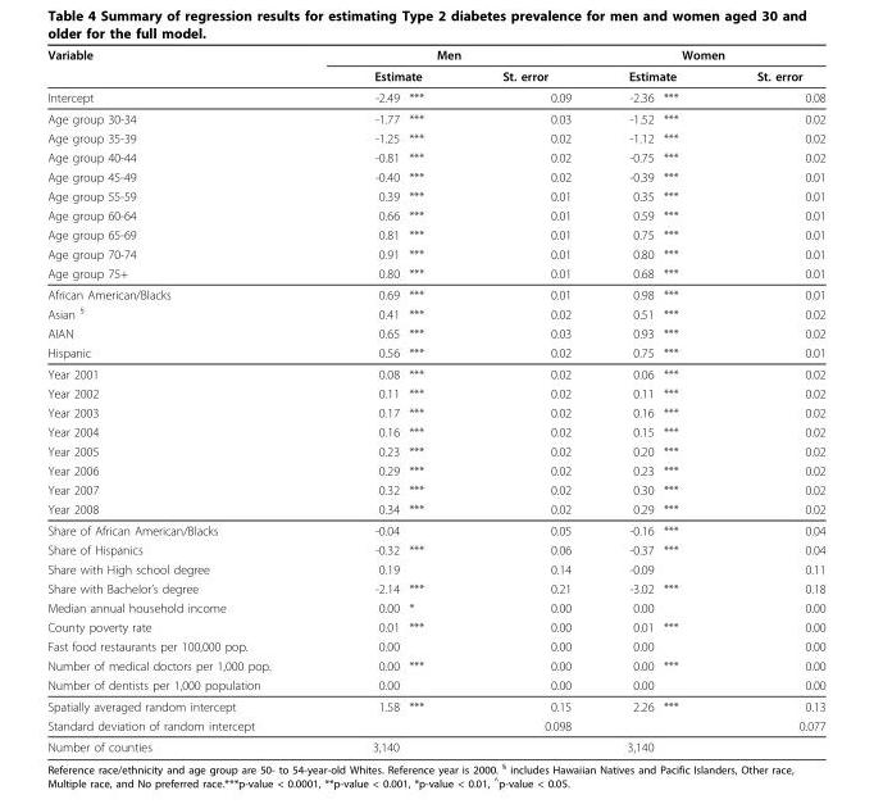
<table><thead><tr><td rowspan="3">Variable Intercept</td><td colspan="3">Men</td><td colspan="3">Women</td></tr><tr><td colspan="2">Estimate</td><td rowspan="2">St. error 0.09</td><td colspan="2">Estimate</td><td rowspan="2">St. error 0.08</td></tr><tr><td>-2.49</td><td>***</td><td>-2.36</td><td>***</td></tr></thead><tbody><tr><td>Age group 30-34</td><td>-1.77</td><td>***</td><td>0.03</td><td>-1.52</td><td>***</td><td>0.02</td></tr><tr><td>Age group 35-39</td><td>-1.25</td><td>***</td><td>0.02</td><td>-1.12</td><td>***</td><td>0.02</td></tr><tr><td>Age group 40-44</td><td>-0.81</td><td>***</td><td>0.02</td><td>-0.75</td><td>***</td><td>0.02</td></tr><tr><td>Age group 45-49</td><td>-0.40</td><td>***</td><td>0.02</td><td>-0.39</td><td>***</td><td>0.01</td></tr><tr><td>Age group 55-59</td><td>0.39</td><td>***</td><td>0.01</td><td>0.35</td><td>***</td><td>0.01</td></tr><tr><td>Age group 60-64</td><td>0.66</td><td>***</td><td>0.01</td><td>0.59</td><td>***</td><td>0.01</td></tr><tr><td>Age group 65-69</td><td>0.81</td><td>***</td><td>0.01</td><td>0.75</td><td>***</td><td>0.01</td></tr><tr><td>Age group 70-74</td><td>0.91</td><td>***</td><td>0.01</td><td>0.80</td><td>***</td><td>0.01</td></tr><tr><td>Age group 75+</td><td>0.80</td><td>***</td><td>0.01</td><td>0.68</td><td>***</td><td>0.01</td></tr><tr><td>African American/Blacks</td><td>0.69</td><td>***</td><td>0.01</td><td>0.98</td><td>***</td><td>0.01</td></tr><tr><td>Asian <sup>§</sup></td><td>0.41</td><td>***</td><td>0.02</td><td>0.51</td><td>***</td><td>0.02</td></tr><tr><td>AIAN</td><td>0.65</td><td>***</td><td>0.03</td><td>0.93</td><td>***</td><td>0.02</td></tr><tr><td>Hispanic</td><td>0.56</td><td>***</td><td>0.02</td><td>0.75</td><td>***</td><td>0.01</td></tr><tr><td>Year 2001</td><td>0.08</td><td>***</td><td>0.02</td><td>0.06</td><td>***</td><td>0.02</td></tr><tr><td>Year 2002</td><td>0.11</td><td>***</td><td>0.02</td><td>0.11</td><td>***</td><td>0.02</td></tr><tr><td>Year 2003</td><td>0.17</td><td>***</td><td>0.02</td><td>0.16</td><td>***</td><td>0.02</td></tr><tr><td>Year 2004</td><td>0.16</td><td>***</td><td>0.02</td><td>0.15</td><td>***</td><td>0.02</td></tr><tr><td>Year 2005</td><td>0.23</td><td>***</td><td>0.02</td><td>0.20</td><td>***</td><td>0.02</td></tr><tr><td>Year 2006</td><td>0.29</td><td>***</td><td>0.02</td><td>0.23</td><td>***</td><td>0.02</td></tr><tr><td>Year 2007</td><td>0.32</td><td>***</td><td>0.02</td><td>0.30</td><td>***</td><td>0.02</td></tr><tr><td>Year 2008</td><td>0.34</td><td>***</td><td>0.02</td><td>0.29</td><td>***</td><td>0.02</td></tr><tr><td>Share of African American/Blacks</td><td>-0.04</td><td></td><td>0.05</td><td>-0.16</td><td>***</td><td>0.04</td></tr><tr><td>Share of Hispanics</td><td>-0.32</td><td>***</td><td>0.06</td><td>-0.37</td><td>***</td><td>0.04</td></tr><tr><td>Share with High school degree</td><td>0.19</td><td></td><td>0.14</td><td>-0.09</td><td></td><td>0.11</td></tr><tr><td>Share with Bachelor’s degree</td><td>-2.14</td><td>***</td><td>0.21</td><td>-3.02</td><td>***</td><td>0.18</td></tr><tr><td>Median annual household income</td><td>0.00</td><td>*</td><td>0.00</td><td>0.00</td><td></td><td>0.00</td></tr><tr><td>County poverty rate</td><td>0.01</td><td>***</td><td>0.00</td><td>0.01</td><td>***</td><td>0.00</td></tr><tr><td>Fast food restaurants per 100,000 pop.</td><td>0.00</td><td></td><td>0.00</td><td>0.00</td><td></td><td>0.00</td></tr><tr><td>Number of medical doctors per 1,000 pop.</td><td>0.00</td><td>***</td><td>0.00</td><td>0.00</td><td>***</td><td>0.00</td></tr><tr><td>Number of dentists per 1,000 population</td><td>0.00</td><td></td><td>0.00</td><td>0.00</td><td></td><td>0.00</td></tr><tr><td>Spatially averaged random intercept</td><td>1.58</td><td>***</td><td>0.15</td><td>2.26</td><td>***</td><td>0.13</td></tr><tr><td>Standard deviation of random intercept</td><td></td><td></td><td>0.098</td><td></td><td></td><td>0.077</td></tr><tr><td>Number of counties</td><td>3,140</td><td></td><td></td><td>3,140</td><td></td><td></td></tr></tbody></table>